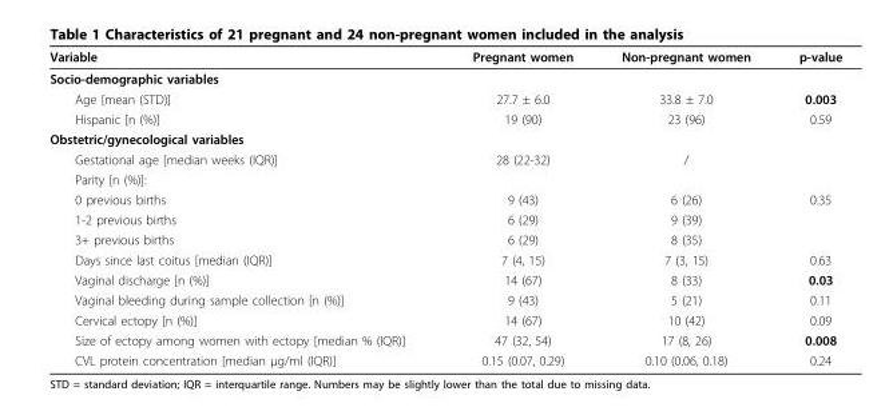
<table><thead><tr><td>Variable</td><td>Pregnant women</td><td>Non-pregnant women</td><td>p-value</td></tr></thead><tbody><tr><td colspan="4">Socio-demographic variables</td></tr><tr><td>Age [mean (STD)]</td><td>27.7 ± 6.0</td><td>33.8 ± 7.0</td><td>0.003</td></tr><tr><td>Hispanic [n (%)]</td><td>19 (90)</td><td>23 (96)</td><td>0.59</td></tr><tr><td colspan="4">Obstetric/gynecological variables</td></tr><tr><td>Gestational age [median weeks (IQR)]</td><td>28 (22-32)</td><td>/</td><td></td></tr><tr><td colspan="4">Parity [n (%)]:</td></tr><tr><td>0 previous births</td><td>9 (43)</td><td>6 (26)</td><td>0.35</td></tr><tr><td>1-2 previous births</td><td>6 (29)</td><td>9 (39)</td><td></td></tr><tr><td>3+ previous births</td><td>6 (29)</td><td>8 (35)</td><td></td></tr><tr><td>Days since last coitus [median (IQR)]</td><td>7 (4, 15)</td><td>7 (3, 15)</td><td>0.63</td></tr><tr><td>Vaginal discharge [n (%)]</td><td>14 (67)</td><td>8 (33)</td><td>0.03</td></tr><tr><td>Vaginal bleeding during sample collection [n (%)]</td><td>9 (43)</td><td>5 (21)</td><td>0.11</td></tr><tr><td>Cervical ectopy [n (%)]</td><td>14 (67)</td><td>10 (42)</td><td>0.09</td></tr><tr><td>Size of ectopy among women with ectopy [median % (IQR)]</td><td>47 (32, 54)</td><td>17 (8, 26)</td><td>0.008</td></tr><tr><td>CVL protein concentration [median μg/ml (IQR)]</td><td>0.15 (0.07, 0.29)</td><td>0.10 (0.06, 0.18)</td><td>0.24</td></tr></tbody></table>